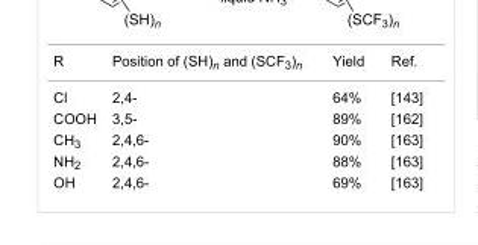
<table><tbody><tr><td>R</td><td>Position of (SH)<sub>n</sub> and (SCF<sub>3</sub>)<sub>n</sub></td><td>Yield</td><td>Ref.</td></tr><tr><td>Cl</td><td>2,4-</td><td>64%</td><td>[143]</td></tr><tr><td>COOH</td><td>3,5-</td><td>89%</td><td>[162]</td></tr><tr><td>CH<sub>3</sub></td><td>2,4,6-</td><td>90%</td><td>[163]</td></tr><tr><td>NH<sub>2</sub></td><td>2,4,6-</td><td>88%</td><td>[163]</td></tr><tr><td>OH</td><td>2,4,6-</td><td>69%</td><td>[163]</td></tr></tbody></table>